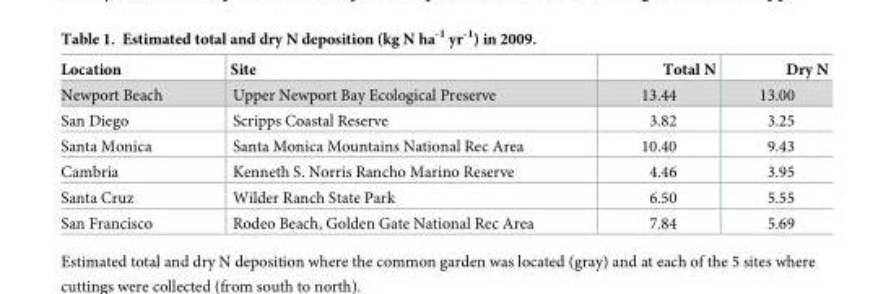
<table><thead><tr><td>Location</td><td>Site</td><td>Total N</td><td>Dry N</td></tr></thead><tbody><tr><td>Newport Beach</td><td>Upper Newport Bay Ecological Preserve</td><td>13.44</td><td>13.00</td></tr><tr><td>San Diego</td><td>Scripps Coastal Reserve</td><td>3.82</td><td>3.25</td></tr><tr><td>Santa Monica</td><td>Santa Monica Mountains National Rec Area</td><td>10.40</td><td>9.43</td></tr><tr><td>Cambria</td><td>Kenneth S. Norris Rancho Marino Reserve</td><td>4.46</td><td>3.95</td></tr><tr><td>Santa Cruz</td><td>Wilder Ranch State Park</td><td>6.50</td><td>5.55</td></tr><tr><td>San Francisco</td><td>Rodeo Beach, Golden Gate National Rec Area</td><td>7.84</td><td>5.69</td></tr></tbody></table>